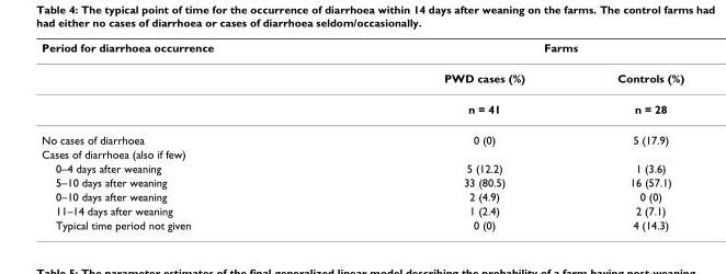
<table><thead><tr><td rowspan="2">Period for diarrhoea occurrence</td><td colspan="2">Farms</td></tr><tr><td>PWD cases (%)</td><td>Controls (%)</td></tr></thead><tbody><tr><td></td><td>n = 41</td><td>n = 28</td></tr><tr><td>No cases of diarrhoea</td><td>0 (0)</td><td>5 (17.9)</td></tr><tr><td colspan="3">Cases of diarrhoea (also if few)</td></tr><tr><td>0–4 days after weaning</td><td>5 (12.2)</td><td>1 (3.6)</td></tr><tr><td>5–10 days after weaning</td><td>33 (80.5)</td><td>16 (57.1)</td></tr><tr><td>0–10 days after weaning</td><td>2 (4.9)</td><td>0 (0)</td></tr><tr><td>11–14 days after weaning</td><td>1 (2.4)</td><td>2 (7.1)</td></tr><tr><td>Typical time period not given</td><td>0 (0)</td><td>4 (14.3)</td></tr></tbody></table>